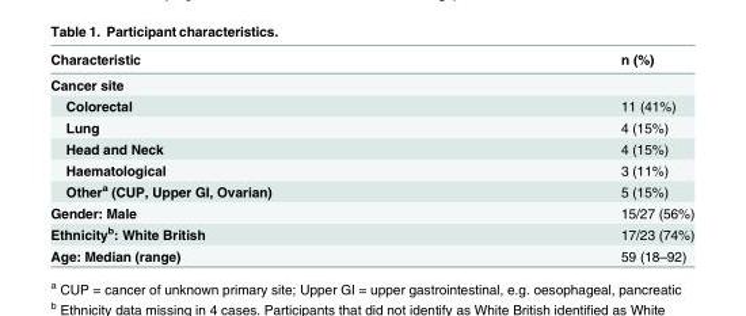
<table><thead><tr><td>Characteristic</td><td>n (%)</td></tr></thead><tbody><tr><td colspan="2">Cancer site</td></tr><tr><td>Colorectal</td><td>11 (41%)</td></tr><tr><td>Lung</td><td>4 (15%)</td></tr><tr><td>Head and Neck</td><td>4 (15%)</td></tr><tr><td>Haematological</td><td>3 (11%)</td></tr><tr><td>Other<sup>a</sup> (CUP, Upper GI, Ovarian)</td><td>5 (15%)</td></tr><tr><td>Gender: Male</td><td>15/27 (56%)</td></tr><tr><td>Ethnicity<sup>b</sup>: White British</td><td>17/23 (74%)</td></tr><tr><td>Age: Median (range)</td><td>59 (18–92)</td></tr></tbody></table>